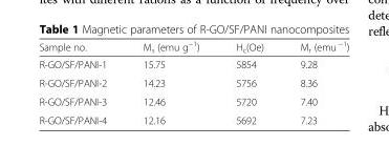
<table><thead><tr><td>Sample no.</td><td>M<sub>s</sub> (emu g<sup>−1</sup>)</td><td>H<sub>c</sub>(Oe)</td><td>M<sub>r</sub> (emu <sup>−1</sup>)</td></tr></thead><tbody><tr><td>R-GO/SF/PANI-1</td><td>15.75</td><td>5854</td><td>9.28</td></tr><tr><td>R-GO/SF/PANI-2</td><td>14.23</td><td>5756</td><td>8.36</td></tr><tr><td>R-GO/SF/PANI-3</td><td>12.46</td><td>5720</td><td>7.40</td></tr><tr><td>R-GO/SF/PANI-4</td><td>12.16</td><td>5692</td><td>7.23</td></tr></tbody></table>